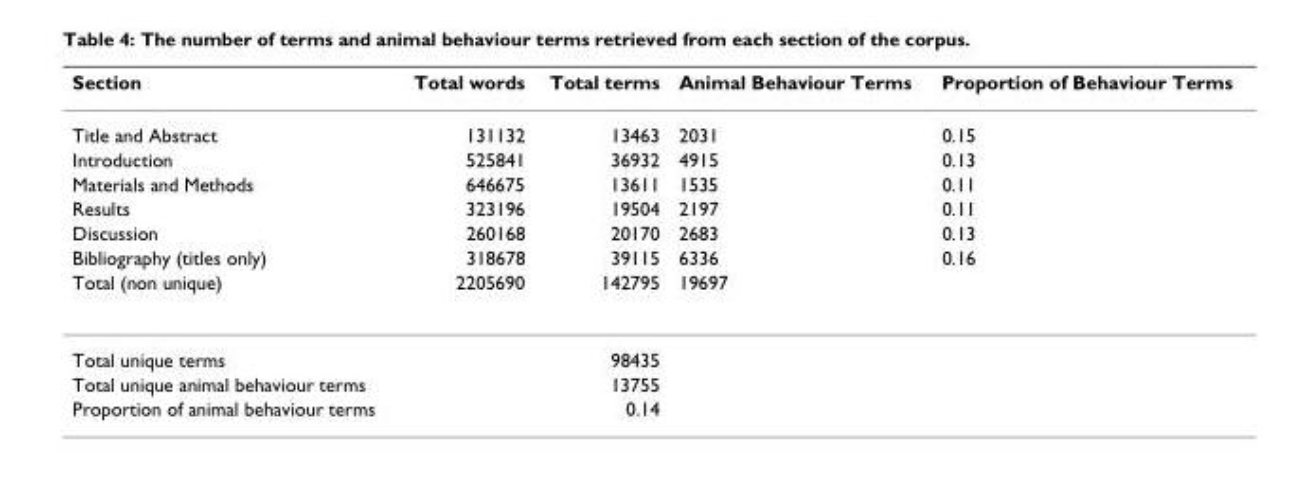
<table><thead><tr><td>Section</td><td>Total words</td><td>Total terms</td><td>Animal Behaviour Terms</td><td>Proportion of Behaviour Terms</td></tr></thead><tbody><tr><td>Title and Abstract</td><td>131132</td><td>13463</td><td>2031</td><td>0.15</td></tr><tr><td>Introduction</td><td>525841</td><td>36932</td><td>4915</td><td>0.13</td></tr><tr><td>Materials and Methods</td><td>646675</td><td>13611</td><td>1535</td><td>0.11</td></tr><tr><td>Results</td><td>323196</td><td>19504</td><td>2197</td><td>0.11</td></tr><tr><td>Discussion</td><td>260168</td><td>20170</td><td>2683</td><td>0.13</td></tr><tr><td>Bibliography (titles only)</td><td>318678</td><td>39115</td><td>6336</td><td>0.16</td></tr><tr><td>Total (non unique)</td><td>2205690</td><td>142795</td><td>19697</td><td></td></tr><tr><td>Total unique terms</td><td></td><td>98435</td><td></td><td></td></tr><tr><td>Total unique animal behaviour terms</td><td></td><td>13755</td><td></td><td></td></tr><tr><td>Proportion of animal behaviour terms</td><td></td><td>0.14</td><td></td><td></td></tr></tbody></table>